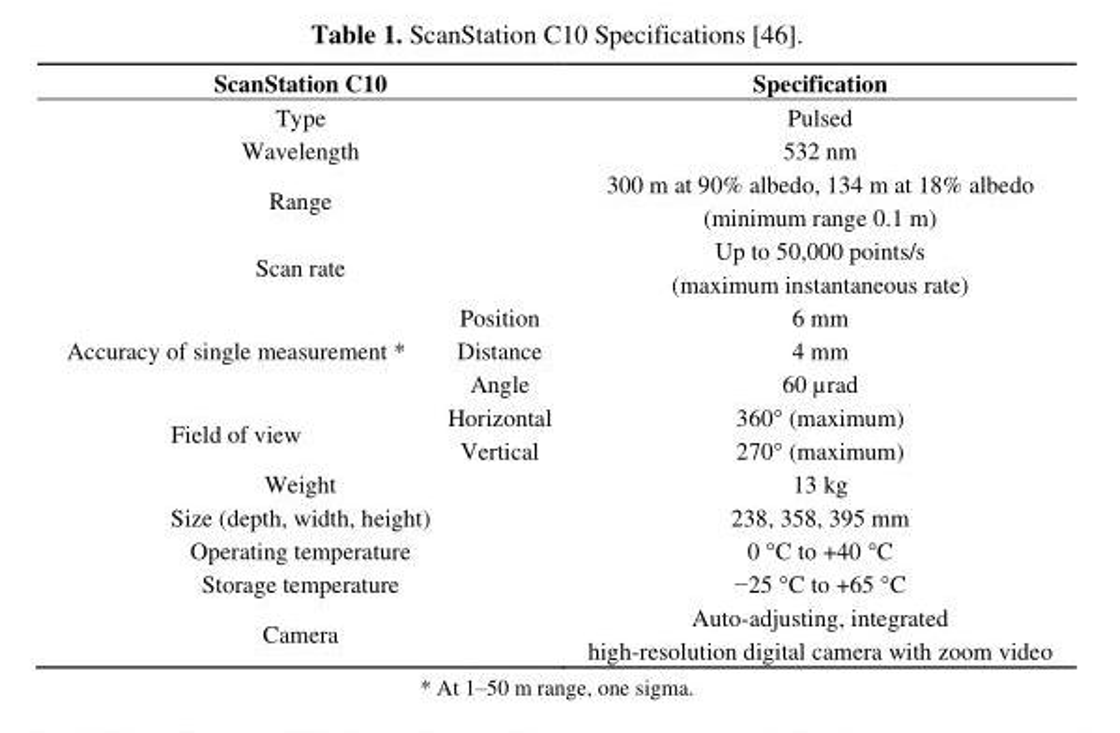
<table><thead><tr><td colspan="2">ScanStation C10</td><td>Specification</td></tr></thead><tbody><tr><td colspan="2">Type</td><td>Pulsed</td></tr><tr><td colspan="2">Wavelength</td><td>532 nm</td></tr><tr><td colspan="2">Range</td><td>300 m at 90% albedo, 134 m at 18% albedo (minimum range 0.1 m)</td></tr><tr><td colspan="2">Scan rate</td><td>Up to 50,000 points/s (maximum instantaneous rate)</td></tr><tr><td rowspan="3">Accuracy of single measurement *</td><td>Position</td><td>6 mm</td></tr><tr><td>Distance</td><td>4 mm</td></tr><tr><td>Angle</td><td>60 µrad</td></tr><tr><td rowspan="2">Field of view</td><td>Horizontal</td><td>360° (maximum)</td></tr><tr><td>Vertical</td><td>270° (maximum)</td></tr><tr><td colspan="2">Weight</td><td>13 kg</td></tr><tr><td colspan="2">Size (depth, width, height)</td><td>238, 358, 395 mm</td></tr><tr><td colspan="2">Operating temperature</td><td>0 °C to +40 °C</td></tr><tr><td colspan="2">Storage temperature</td><td>−25 °C to +65 °C</td></tr><tr><td colspan="2">Camera</td><td>Auto-adjusting, integrated high-resolution digital camera with zoom video</td></tr></tbody></table>